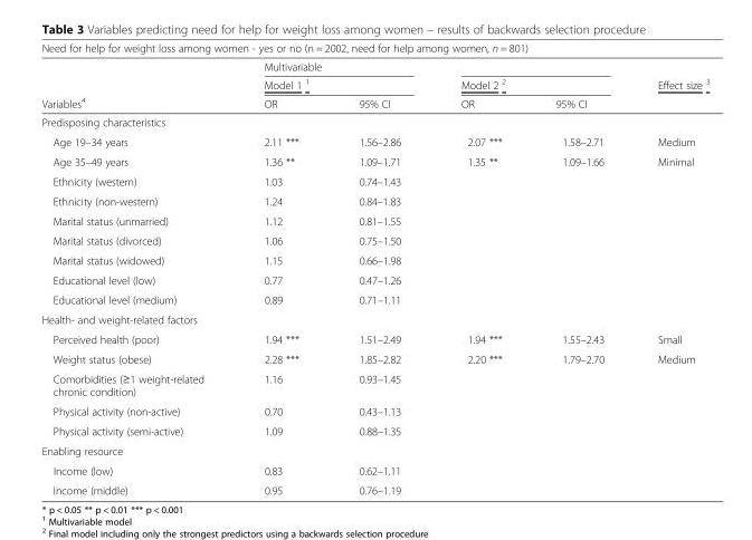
<table><thead><tr><td colspan="6">Need for help for weight loss among women - yes or no (n = 2002, need for help among women, n = 801)</td></tr><tr><td rowspan="3">Variables<sup>4</sup></td><td rowspan="2" colspan="2">Multivariable Model 1 <sup>1</sup></td><td></td><td></td><td rowspan="3">Effect size <sup>3</sup></td></tr><tr><td colspan="2">Model 2 <sup>2</sup></td></tr><tr><td>OR</td><td>95% CI</td><td>OR</td><td>95% CI</td></tr></thead><tbody><tr><td colspan="6">Predisposing characteristics</td></tr><tr><td>Age 19–34 years</td><td>2.11 ***</td><td>1.56–2.86</td><td>2.07 ***</td><td>1.58–2.71</td><td>Medium</td></tr><tr><td>Age 35–49 years</td><td>1.36 **</td><td>1.09–1.71</td><td>1.35 **</td><td>1.09–1.66</td><td>Minimal</td></tr><tr><td>Ethnicity (western)</td><td>1.03</td><td>0.74–1.43</td><td></td><td></td><td></td></tr><tr><td>Ethnicity (non-western)</td><td>1.24</td><td>0.84–1.83</td><td></td><td></td><td></td></tr><tr><td>Marital status (unmarried)</td><td>1.12</td><td>0.81–1.55</td><td></td><td></td><td></td></tr><tr><td>Marital status (divorced)</td><td>1.06</td><td>0.75–1.50</td><td></td><td></td><td></td></tr><tr><td>Marital status (widowed)</td><td>1.15</td><td>0.66–1.98</td><td></td><td></td><td></td></tr><tr><td>Educational level (low)</td><td>0.77</td><td>0.47–1.26</td><td></td><td></td><td></td></tr><tr><td>Educational level (medium)</td><td>0.89</td><td>0.71–1.11</td><td></td><td></td><td></td></tr><tr><td colspan="6">Health- and weight-related factors</td></tr><tr><td>Perceived health (poor)</td><td>1.94 ***</td><td>1.51–2.49</td><td>1.94 ***</td><td>1.55–2.43</td><td>Small</td></tr><tr><td>Weight status (obese)</td><td>2.28 ***</td><td>1.85–2.82</td><td>2.20 ***</td><td>1.79–2.70</td><td>Medium</td></tr><tr><td>Comorbidities (≥1 weight-related chronic condition)</td><td>1.16</td><td>0.93–1.45</td><td></td><td></td><td></td></tr><tr><td>Physical activity (non-active)</td><td>0.70</td><td>0.43–1.13</td><td></td><td></td><td></td></tr><tr><td>Physical activity (semi-active)</td><td>1.09</td><td>0.88–1.35</td><td></td><td></td><td></td></tr><tr><td colspan="6">Enabling resource</td></tr><tr><td>Income (low)</td><td>0.83</td><td>0.62–1.11</td><td></td><td></td><td></td></tr><tr><td>Income (middle)</td><td>0.95</td><td>0.76–1.19</td><td></td><td></td><td></td></tr></tbody></table>